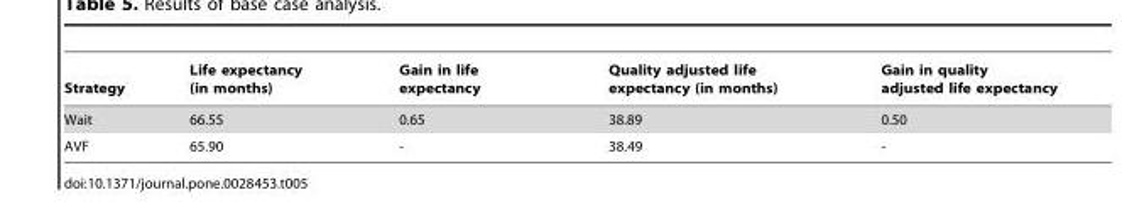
<table><thead><tr><td>Strategy</td><td>Life expectancy (in months)</td><td>Gain in life expectancy</td><td>Quality adjusted life expectancy (in months)</td><td>Gain in quality adjusted life expectancy</td></tr></thead><tbody><tr><td>Wait</td><td>66.55</td><td>0.65</td><td>38.89</td><td>0.50</td></tr><tr><td>AVF</td><td>65.90</td><td>-</td><td>38.49</td><td>-</td></tr></tbody></table>